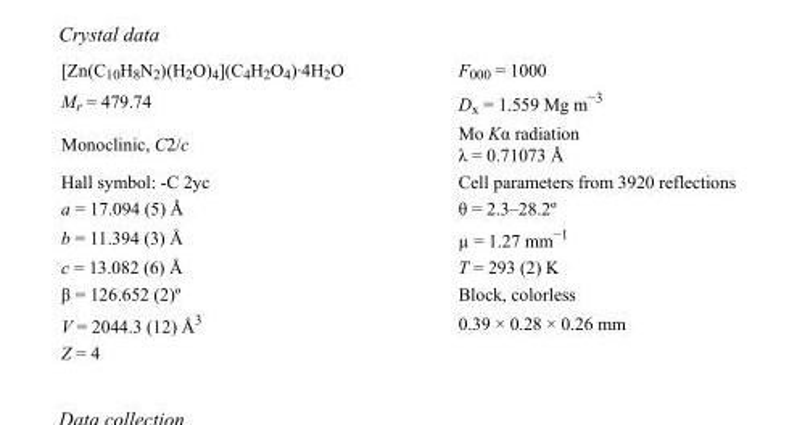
<table><tbody><tr><td>[Zn(C<sub>10</sub>H<sub>8</sub>N<sub>2</sub>)(H<sub>2</sub>O)<sub>4</sub>](C<sub>4</sub>H<sub>2</sub>O<sub>4</sub>)·4H<sub>2</sub>O</td><td>F<sub>000</sub> = 1000</td></tr><tr><td>M<sub>r</sub> = 479.74</td><td>D<sub>x</sub> = 1.559 Mg m<sup>−3</sup></td></tr><tr><td>Monoclinic, C2/c</td><td>Mo Kα radiation λ = 0.71073 Å</td></tr><tr><td>Hall symbol: -C 2yc</td><td>Cell parameters from 3920 reflections</td></tr><tr><td>a = 17.094 (5) Å</td><td>θ = 2.3–28.2º</td></tr><tr><td>b = 11.394 (3) Å</td><td>µ = 1.27 mm<sup>−1</sup></td></tr><tr><td>c = 13.082 (6) Å</td><td>T = 293 (2) K</td></tr><tr><td>β = 126.652 (2)º</td><td>Block, colorless</td></tr><tr><td>V = 2044.3 (12) Å<sup>3</sup></td><td>0.39 × 0.28 × 0.26 mm</td></tr><tr><td>Z = 4</td><td></td></tr></tbody></table>